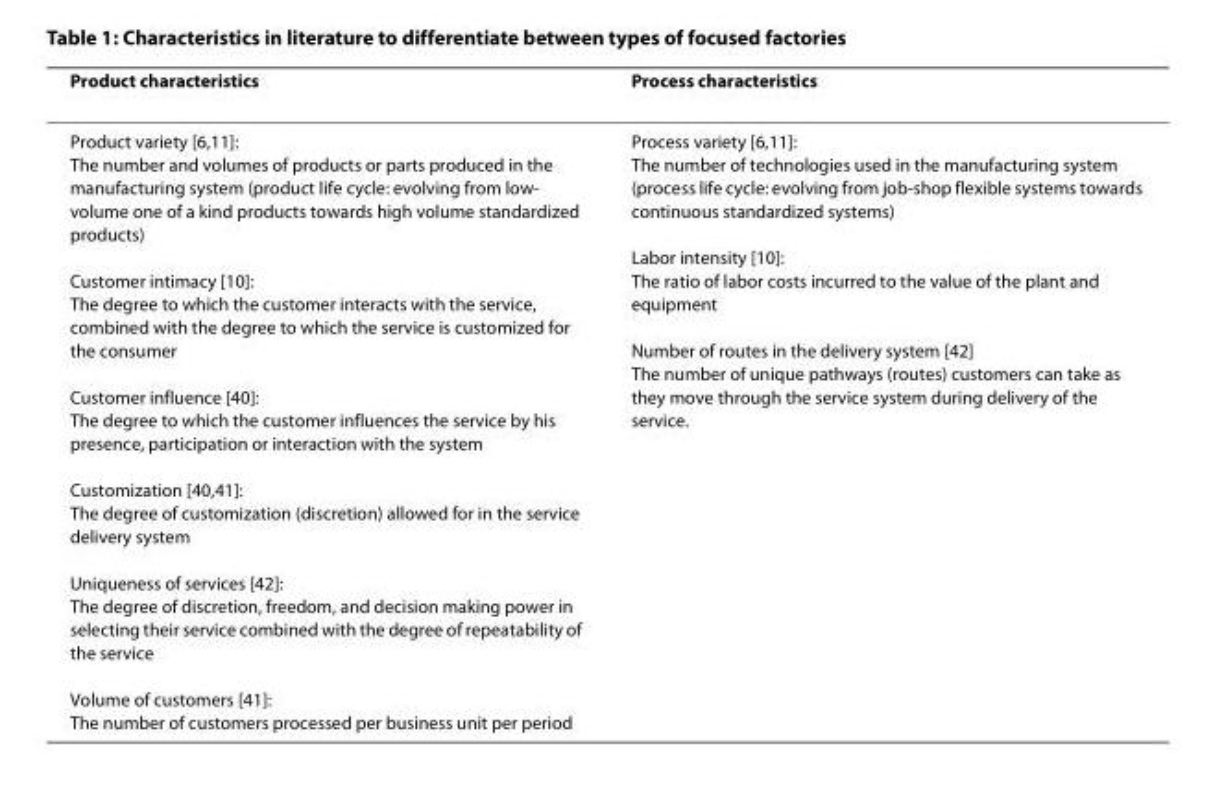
<table><thead><tr><td>Product characteristics</td><td>Process characteristics</td></tr></thead><tbody><tr><td>Product variety [6,11]: The number and volumes of products or parts produced in the manufacturing system (product life cycle: evolving from low- volume one of a kind products towards high volume standardized products) Customer intimacy [10]: The degree to which the customer interacts with the service, combined with the degree to which the service is customized for the consumer Customer influence [40]: The degree to which the customer influences the service by his presence, participation or interaction with the system Customization [40,41]: The degree of customization (discretion) allowed for in the service delivery system Uniqueness of services [42]: The degree of discretion, freedom, and decision making power in selecting their service combined with the degree of repeatability of the service Volume of customers [41]: The number of customers processed per business unit per period</td><td>Process variety [6,11]: The number of technologies used in the manufacturing system (process life cycle: evolving from job-shop flexible systems towards continuous standardized systems) Labor intensity [10]: The ratio of labor costs incurred to the value of the plant and equipment Number of routes in the delivery system [42] The number of unique pathways (routes) customers can take as they move through the service system during delivery of the service.</td></tr></tbody></table>